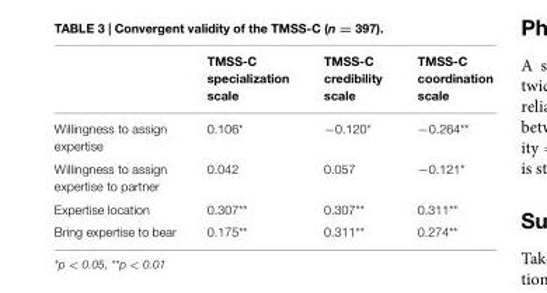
<table><thead><tr><td></td><td>TMSS-C specialization scale</td><td>TMSS-C credibility scale</td><td>TMSS-C coordination scale</td></tr></thead><tbody><tr><td>Willingness to assign expertise</td><td>0.106*</td><td>−0.120*</td><td>−0.264**</td></tr><tr><td>Willingness to assign expertise to partner</td><td>0.042</td><td>0.057</td><td>−0.121*</td></tr><tr><td>Expertise location</td><td>0.307**</td><td>0.307**</td><td>0.311**</td></tr><tr><td>Bring expertise to bear</td><td>0.175**</td><td>0.311**</td><td>0.274**</td></tr></tbody></table>